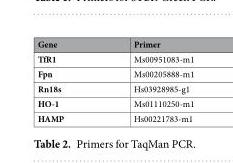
<table><thead><tr><td>Gene</td><td>Primer</td></tr></thead><tbody><tr><td>TfR1</td><td>Ms00951083-m1</td></tr><tr><td>Fpn</td><td>Ms00205888-m1</td></tr><tr><td>Rn18s</td><td>Hs03928985-g1</td></tr><tr><td>HO-1</td><td>Ms01110250-m1</td></tr><tr><td>HAMP</td><td>Hs00221783-m1</td></tr></tbody></table>